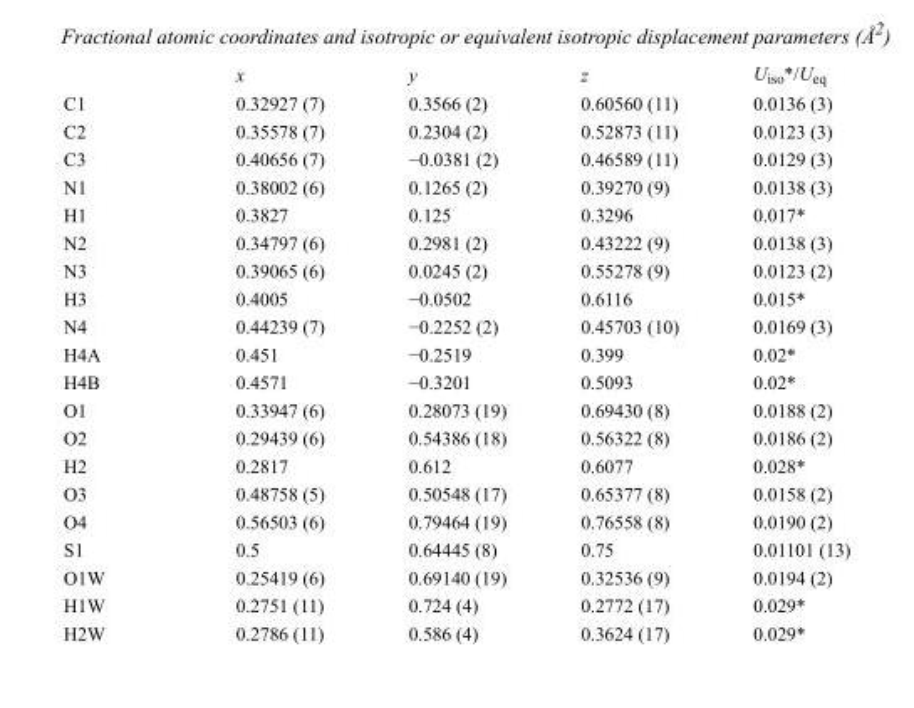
<table><thead><tr><td></td><td>x</td><td>y</td><td>z</td><td>U<sub>iso</sub>*/U<sub>eq</sub></td></tr></thead><tbody><tr><td>C1</td><td>0.32927 (7)</td><td>0.3566 (2)</td><td>0.60560 (11)</td><td>0.0136 (3)</td></tr><tr><td>C2</td><td>0.35578 (7)</td><td>0.2304 (2)</td><td>0.52873 (11)</td><td>0.0123 (3)</td></tr><tr><td>C3</td><td>0.40656 (7)</td><td>−0.0381 (2)</td><td>0.46589 (11)</td><td>0.0129 (3)</td></tr><tr><td>N1</td><td>0.38002 (6)</td><td>0.1265 (2)</td><td>0.39270 (9)</td><td>0.0138 (3)</td></tr><tr><td>H1</td><td>0.3827</td><td>0.125</td><td>0.3296</td><td>0.017*</td></tr><tr><td>N2</td><td>0.34797 (6)</td><td>0.2981 (2)</td><td>0.43222 (9)</td><td>0.0138 (3)</td></tr><tr><td>N3</td><td>0.39065 (6)</td><td>0.0245 (2)</td><td>0.55278 (9)</td><td>0.0123 (2)</td></tr><tr><td>H3</td><td>0.4005</td><td>−0.0502</td><td>0.6116</td><td>0.015*</td></tr><tr><td>N4</td><td>0.44239 (7)</td><td>−0.2252 (2)</td><td>0.45703 (10)</td><td>0.0169 (3)</td></tr><tr><td>H4A</td><td>0.451</td><td>−0.2519</td><td>0.399</td><td>0.02*</td></tr><tr><td>H4B</td><td>0.4571</td><td>−0.3201</td><td>0.5093</td><td>0.02*</td></tr><tr><td>O1</td><td>0.33947 (6)</td><td>0.28073 (19)</td><td>0.69430 (8)</td><td>0.0188 (2)</td></tr><tr><td>O2</td><td>0.29439 (6)</td><td>0.54386 (18)</td><td>0.56322 (8)</td><td>0.0186 (2)</td></tr><tr><td>H2</td><td>0.2817</td><td>0.612</td><td>0.6077</td><td>0.028*</td></tr><tr><td>O3</td><td>0.48758 (5)</td><td>0.50548 (17)</td><td>0.65377 (8)</td><td>0.0158 (2)</td></tr><tr><td>O4</td><td>0.56503 (6)</td><td>0.79464 (19)</td><td>0.76558 (8)</td><td>0.0190 (2)</td></tr><tr><td>S1</td><td>0.5</td><td>0.64445 (8)</td><td>0.75</td><td>0.01101 (13)</td></tr><tr><td>O1W</td><td>0.25419 (6)</td><td>0.69140 (19)</td><td>0.32536 (9)</td><td>0.0194 (2)</td></tr><tr><td>H1W</td><td>0.2751 (11)</td><td>0.724 (4)</td><td>0.2772 (17)</td><td>0.029*</td></tr><tr><td>H2W</td><td>0.2786 (11)</td><td>0.586 (4)</td><td>0.3624 (17)</td><td>0.029*</td></tr></tbody></table>